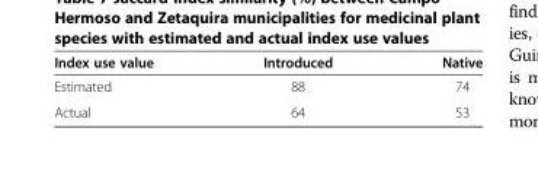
<table><thead><tr><td>Index use value</td><td>Introduced</td><td>Native</td></tr></thead><tbody><tr><td>Estimated</td><td>88</td><td>74</td></tr><tr><td>Actual</td><td>64</td><td>53</td></tr></tbody></table>